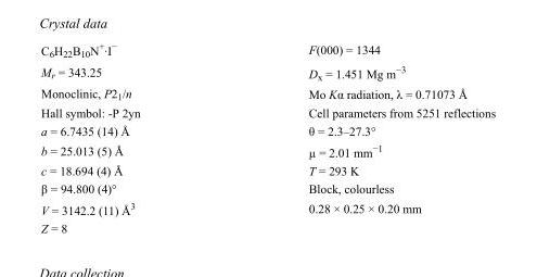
<table><tbody><tr><td>C<sub>6</sub>H<sub>22</sub>B<sub>10</sub>N<sup>+</sup>·I<sup>−</sup></td><td>F(000) = 1344</td></tr><tr><td>M<sub>r</sub> = 343.25</td><td>D<sub>x</sub> = 1.451 Mg m<sup>−3</sup></td></tr><tr><td>Monoclinic, P2<sub>1</sub>/n</td><td>Mo Kα radiation, λ = 0.71073 Å</td></tr><tr><td>Hall symbol: -P 2yn</td><td>Cell parameters from 5251 reflections</td></tr><tr><td>a = 6.7435 (14) Å</td><td>θ = 2.3–27.3°</td></tr><tr><td>b = 25.013 (5) Å</td><td>µ = 2.01 mm<sup>−1</sup></td></tr><tr><td>c = 18.694 (4) Å</td><td>T = 293 K</td></tr><tr><td>β = 94.800 (4)°</td><td>Block, colourless</td></tr><tr><td>V = 3142.2 (11) Å<sup>3</sup></td><td>0.28 × 0.25 × 0.20 mm</td></tr><tr><td>Z = 8</td><td></td></tr></tbody></table>